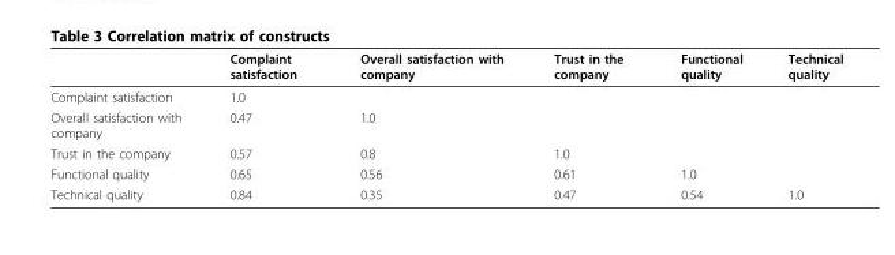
<table><thead><tr><td></td><td>Complaint satisfaction</td><td>Overall satisfaction with company</td><td>Trust in the company</td><td>Functional quality</td><td>Technical quality</td></tr></thead><tbody><tr><td>Complaint satisfaction</td><td>1.0</td><td></td><td></td><td></td><td></td></tr><tr><td>Overall satisfaction with company</td><td>0.47</td><td>1.0</td><td></td><td></td><td></td></tr><tr><td>Trust in the company</td><td>0.57</td><td>0.8</td><td>1.0</td><td></td><td></td></tr><tr><td>Functional quality</td><td>0.65</td><td>0.56</td><td>0.61</td><td>1.0</td><td></td></tr><tr><td>Technical quality</td><td>0.84</td><td>0.35</td><td>0.47</td><td>0.54</td><td>1.0</td></tr></tbody></table>